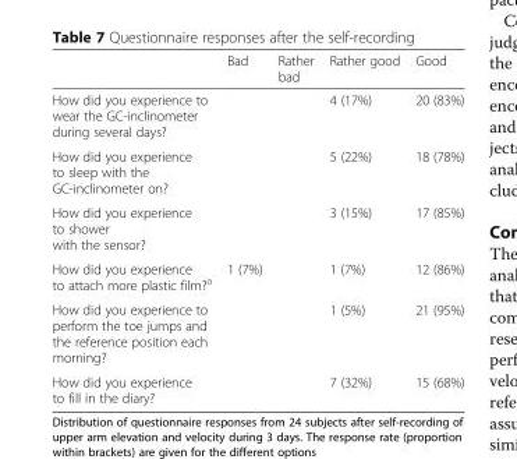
<table><thead><tr><td></td><td>Bad</td><td>Rather bad</td><td>Rather good</td><td>Good</td></tr></thead><tbody><tr><td>How did you experience to wear the GC-inclinometer during several days?</td><td></td><td></td><td>4 (17%)</td><td>20 (83%)</td></tr><tr><td>How did you experience to sleep with the GC-inclinometer on?</td><td></td><td></td><td>5 (22%)</td><td>18 (78%)</td></tr><tr><td>How did you experience to shower with the sensor?</td><td></td><td></td><td>3 (15%)</td><td>17 (85%)</td></tr><tr><td>How did you experience to attach more plastic film?<sup>a</sup></td><td>1 (7%)</td><td></td><td>1 (7%)</td><td>12 (86%)</td></tr><tr><td>How did you experience to perform the toe jumps and the reference position each morning?</td><td></td><td></td><td>1 (5%)</td><td>21 (95%)</td></tr><tr><td>How did you experience to fill in the diary?</td><td></td><td></td><td>7 (32%)</td><td>15 (68%)</td></tr></tbody></table>